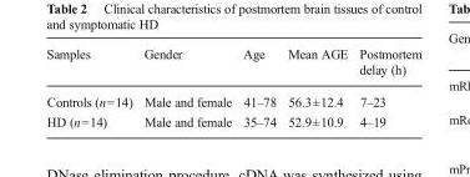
<table><thead><tr><td>Samples</td><td>Gender</td><td>Age</td><td>Mean AGE</td><td>Postmortem delay (h)</td></tr></thead><tbody><tr><td>Controls (n=14)</td><td>Male and female</td><td>41–78</td><td>56.3±12.4</td><td>7–23</td></tr><tr><td>HD (n=14)</td><td>Male and female</td><td>35–74</td><td>52.9±10.9</td><td>4–19</td></tr></tbody></table>